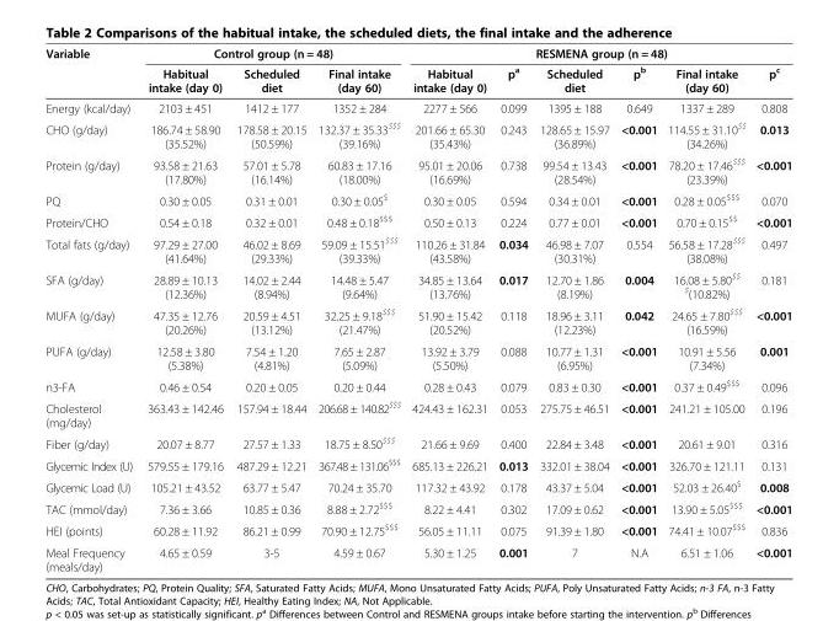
<table><thead><tr><td rowspan="2">Variable</td><td colspan="3">Control group (n = 48)</td><td colspan="6">RESMENA group (n = 48)</td></tr><tr><td>Habitual intake (day 0)</td><td>Scheduled diet</td><td>Final intake (day 60)</td><td>Habitual intake (day 0)</td><td>p<sup>a</sup></td><td>Scheduled diet</td><td>p<sup>b</sup></td><td>Final intake (day 60)</td><td>p<sup>c</sup></td></tr></thead><tbody><tr><td>Energy (kcal/day)</td><td>2103 ± 451</td><td>1412 ± 177</td><td>1352 ± 284</td><td>2277 ± 566</td><td>0.099</td><td>1395 ± 188</td><td>0.649</td><td>1337 ± 289</td><td>0.808</td></tr><tr><td>CHO (g/day)</td><td>186.74 ± 58.90 (35.52%)</td><td>178.58 ± 20.15 (50.59%)</td><td>132.37 ± 35.33<sup>$$$</sup> (39.16%)</td><td>201.66 ± 65.30 (35.43%)</td><td>0.243</td><td>128.65 ± 15.97 (36.89%)</td><td>&lt;0.001</td><td>114.55 ± 31.10<sup>$$</sup> (34.26%)</td><td>0.013</td></tr><tr><td>Protein (g/day)</td><td>93.58 ± 21.63 (17.80%)</td><td>57.01 ± 5.78 (16.14%)</td><td>60.83 ± 17.16 (18.00%)</td><td>95.01 ± 20.06 (16.69%)</td><td>0.738</td><td>99.54 ± 13.43 (28.54%)</td><td>&lt;0.001</td><td>78.20 ± 17.46<sup>$$$</sup> (23.39%)</td><td>&lt;0.001</td></tr><tr><td>PQ</td><td>0.30 ± 0.05</td><td>0.31 ± 0.01</td><td>0.30 ± 0.05<sup>$</sup></td><td>0.30 ± 0.05</td><td>0.594</td><td>0.34 ± 0.01</td><td>&lt;0.001</td><td>0.28 ± 0.05<sup>$$$</sup></td><td>0.070</td></tr><tr><td>Protein/CHO</td><td>0.54 ± 0.18</td><td>0.32 ± 0.01</td><td>0.48 ± 0.18<sup>$$$</sup></td><td>0.50 ± 0.13</td><td>0.224</td><td>0.77 ± 0.01</td><td>&lt;0.001</td><td>0.70 ± 0.15<sup>$$</sup></td><td>&lt;0.001</td></tr><tr><td>Total fats (g/day)</td><td>97.29 ± 27.00 (41.64%)</td><td>46.02 ± 8.69 (29.33%)</td><td>59.09 ± 15.51<sup>$$$</sup> (39.33%)</td><td>110.26 ± 31.84 (43.58%)</td><td>0.034</td><td>46.98 ± 7.07 (30.31%)</td><td>0.554</td><td>56.58 ± 17.28<sup>$$$</sup> (38.08%)</td><td>0.497</td></tr><tr><td>SFA (g/day)</td><td>28.89 ± 10.13 (12.36%)</td><td>14.02 ± 2.44 (8.94%)</td><td>14.48 ± 5.47 (9.64%)</td><td>34.85 ± 13.64 (13.76%)</td><td>0.017</td><td>12.70 ± 1.86 (8.19%)</td><td>0.004</td><td>16.08 ± 5.80<sup>$$ $</sup>(10.82%)</td><td>0.181</td></tr><tr><td>MUFA (g/day)</td><td>47.35 ± 12.76 (20.26%)</td><td>20.59 ± 4.51 (13.12%)</td><td>32.25 ± 9.18<sup>$$$</sup> (21.47%)</td><td>51.90 ± 15.42 (20.52%)</td><td>0.118</td><td>18.96 ± 3.11 (12.23%)</td><td>0.042</td><td>24.65 ± 7.80<sup>$$$</sup> (16.59%)</td><td>&lt;0.001</td></tr><tr><td>PUFA (g/day)</td><td>12.58 ± 3.80 (5.38%)</td><td>7.54 ± 1.20 (4.81%)</td><td>7.65 ± 2.87 (5.09%)</td><td>13.92 ± 3.79 (5.50%)</td><td>0.088</td><td>10.77 ± 1.31 (6.95%)</td><td>&lt;0.001</td><td>10.91 ± 5.56 (7.34%)</td><td>0.001</td></tr><tr><td>n3-FA</td><td>0.46 ± 0.54</td><td>0.20 ± 0.05</td><td>0.20 ± 0.44</td><td>0.28 ± 0.43</td><td>0.079</td><td>0.83 ± 0.30</td><td>&lt;0.001</td><td>0.37 ± 0.49<sup>$$$</sup></td><td>0.096</td></tr><tr><td>Cholesterol (mg/day)</td><td>363.43 ± 142.46</td><td>157.94 ± 18.44</td><td>206.68 ± 140.82<sup>$$$</sup></td><td>424.43 ± 162.31</td><td>0.053</td><td>275.75 ± 46.51</td><td>&lt;0.001</td><td>241.21 ± 105.00</td><td>0.196</td></tr><tr><td>Fiber (g/day)</td><td>20.07 ± 8.77</td><td>27.57 ± 1.33</td><td>18.75 ± 8.50<sup>$$$</sup></td><td>21.66 ± 9.69</td><td>0.400</td><td>22.84 ± 3.48</td><td>&lt;0.001</td><td>20.61 ± 9.01</td><td>0.316</td></tr><tr><td>Glycemic Index (U)</td><td>579.55 ± 179.16</td><td>487.29 ± 12.21</td><td>367.48 ± 131.06<sup>$$$</sup></td><td>685.13 ± 226.21</td><td>0.013</td><td>332.01 ± 38.04</td><td>&lt;0.001</td><td>326.70 ± 121.11</td><td>0.131</td></tr><tr><td>Glycemic Load (U)</td><td>105.21 ± 43.52</td><td>63.77 ± 5.47</td><td>70.24 ± 35.70</td><td>117.32 ± 43.92</td><td>0.178</td><td>43.37 ± 5.04</td><td>&lt;0.001</td><td>52.03 ± 26.40<sup>$</sup></td><td>0.008</td></tr><tr><td>TAC (mmol/day)</td><td>7.36 ± 3.66</td><td>10.85 ± 0.36</td><td>8.88 ± 2.72<sup>$$$</sup></td><td>8.22 ± 4.41</td><td>0.302</td><td>17.09 ± 0.62</td><td>&lt;0.001</td><td>13.90 ± 5.05<sup>$$$</sup></td><td>&lt;0.001</td></tr><tr><td>HEI (points)</td><td>60.28 ± 11.92</td><td>86.21 ± 0.99</td><td>70.90 ± 12.75<sup>$$$</sup></td><td>56.05 ± 11.11</td><td>0.075</td><td>91.39 ± 1.80</td><td>&lt;0.001</td><td>74.41 ± 10.07<sup>$$$</sup></td><td>0.836</td></tr><tr><td>Meal Frequency (meals/day)</td><td>4.65 ± 0.59</td><td>3-5</td><td>4.59 ± 0.67</td><td>5.30 ± 1.25</td><td>0.001</td><td>7</td><td>N.A</td><td>6.51 ± 1.06</td><td>&lt;0.001</td></tr></tbody></table>